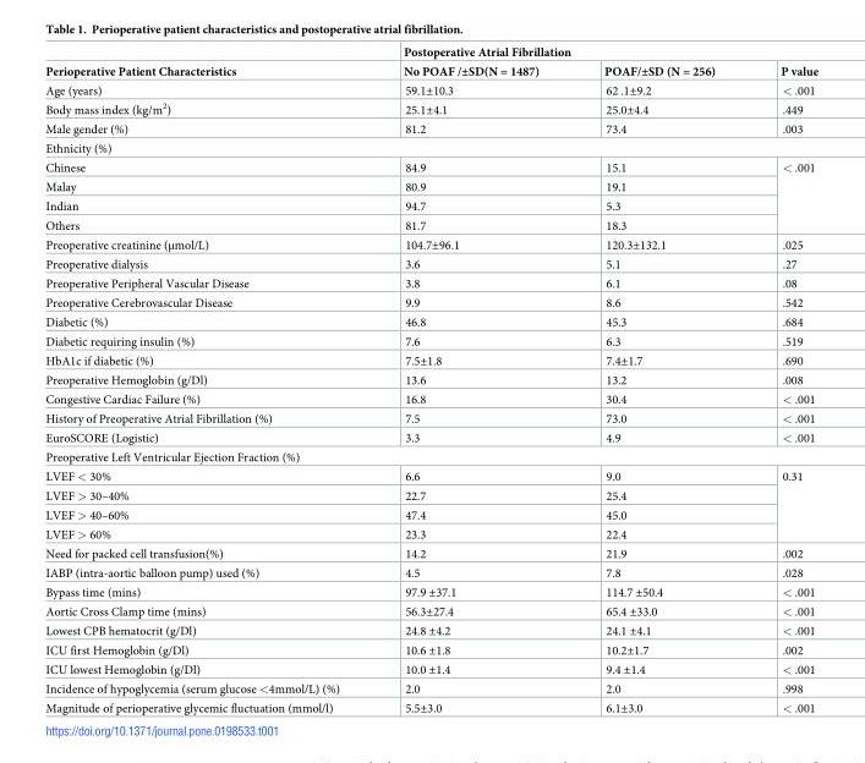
<table><thead><tr><td rowspan="2">Perioperative Patient Characteristics</td><td colspan="3">Postoperative Atrial Fibrillation</td></tr><tr><td>No POAF /±SD(N = 1487)</td><td>POAF/±SD (N = 256)</td><td>P value</td></tr></thead><tbody><tr><td>Age (years)</td><td>59.1±10.3</td><td>62 .1±9.2</td><td>&lt; .001</td></tr><tr><td>Body mass index (kg/m<sup>2</sup>)</td><td>25.1±4.1</td><td>25.0±4.4</td><td>.449</td></tr><tr><td>Male gender (%)</td><td>81.2</td><td>73.4</td><td>.003</td></tr><tr><td colspan="4">Ethnicity (%)</td></tr><tr><td>Chinese</td><td>84.9</td><td>15.1</td><td rowspan="4">&lt; .001</td></tr><tr><td>Malay</td><td>80.9</td><td>19.1</td></tr><tr><td>Indian</td><td>94.7</td><td>5.3</td></tr><tr><td>Others</td><td>81.7</td><td>18.3</td></tr><tr><td>Preoperative creatinine (μmol/L)</td><td>104.7±96.1</td><td>120.3±132.1</td><td>.025</td></tr><tr><td>Preoperative dialysis</td><td>3.6</td><td>5.1</td><td>.27</td></tr><tr><td>Preoperative Peripheral Vascular Disease</td><td>3.8</td><td>6.1</td><td>.08</td></tr><tr><td>Preoperative Cerebrovascular Disease</td><td>9.9</td><td>8.6</td><td>.542</td></tr><tr><td>Diabetic (%)</td><td>46.8</td><td>45.3</td><td>.684</td></tr><tr><td>Diabetic requiring insulin (%)</td><td>7.6</td><td>6.3</td><td>.519</td></tr><tr><td>HbA1c if diabetic (%)</td><td>7.5±1.8</td><td>7.4±1.7</td><td>.690</td></tr><tr><td>Preoperative Hemoglobin (g/Dl)</td><td>13.6</td><td>13.2</td><td>.008</td></tr><tr><td>Congestive Cardiac Failure (%)</td><td>16.8</td><td>30.4</td><td>&lt; .001</td></tr><tr><td>History of Preoperative Atrial Fibrillation (%)</td><td>7.5</td><td>73.0</td><td>&lt; .001</td></tr><tr><td>EuroSCORE (Logistic)</td><td>3.3</td><td>4.9</td><td>&lt; .001</td></tr><tr><td colspan="4">Preoperative Left Ventricular Ejection Fraction (%)</td></tr><tr><td>LVEF &lt; 30%</td><td>6.6</td><td>9.0</td><td rowspan="4">0.31</td></tr><tr><td>LVEF &gt; 30–40%</td><td>22.7</td><td>25.4</td></tr><tr><td>LVEF &gt; 40–60%</td><td>47.4</td><td>45.0</td></tr><tr><td>LVEF &gt; 60%</td><td>23.3</td><td>22.4</td></tr><tr><td>Need for packed cell transfusion(%)</td><td>14.2</td><td>21.9</td><td>.002</td></tr><tr><td>IABP (intra-aortic balloon pump) used (%)</td><td>4.5</td><td>7.8</td><td>.028</td></tr><tr><td>Bypass time (mins)</td><td>97.9 ±37.1</td><td>114.7 ±50.4</td><td>&lt; .001</td></tr><tr><td>Aortic Cross Clamp time (mins)</td><td>56.3±27.4</td><td>65.4 ±33.0</td><td>&lt; .001</td></tr><tr><td>Lowest CPB hematocrit (g/Dl)</td><td>24.8 ±4.2</td><td>24.1 ±4.1</td><td>&lt; .001</td></tr><tr><td>ICU first Hemoglobin (g/Dl)</td><td>10.6 ±1.8</td><td>10.2±1.7</td><td>.002</td></tr><tr><td>ICU lowest Hemoglobin (g/Dl)</td><td>10.0 ±1.4</td><td>9.4 ±1.4</td><td>&lt; .001</td></tr><tr><td>Incidence of hypoglycemia (serum glucose &lt;4mmol/L) (%)</td><td>2.0</td><td>2.0</td><td>.998</td></tr><tr><td>Magnitude of perioperative glycemic fluctuation (mmol/l)</td><td>5.5±3.0</td><td>6.1±3.0</td><td>&lt; .001</td></tr></tbody></table>